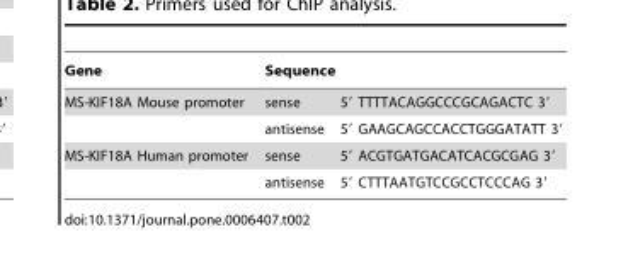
<table><thead><tr><td rowspan="2">Gene MS-KIF18A Mouse promoter</td><td colspan="2">Sequence</td></tr><tr><td>sense</td><td>5′ TTTTACAGGCCCGCAGACTC 3′</td></tr></thead><tbody><tr><td></td><td>antisense</td><td>5′ GAAGCAGCCACCTGGGATATT 3′</td></tr><tr><td rowspan="2">MS-KIF18A Human promoter</td><td>sense</td><td>5′ ACGTGATGACATCACGCGAG 3′</td></tr><tr><td>antisense</td><td>5′ CTTTAATGTCCGCCTCCCAG 3′</td></tr></tbody></table>